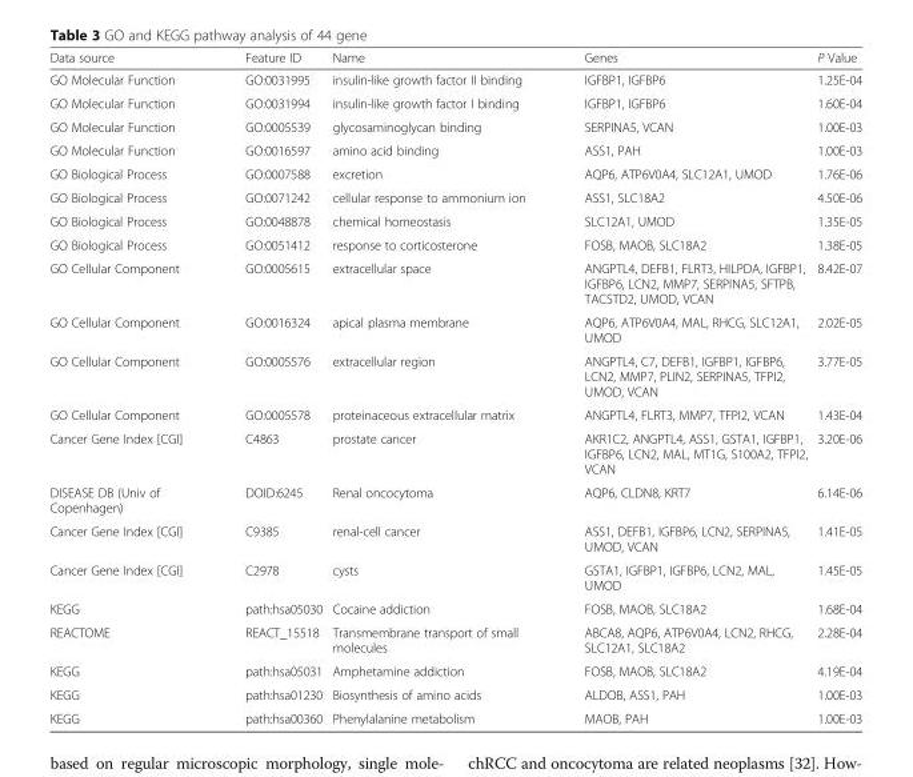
<table><thead><tr><td>Data source</td><td>Feature ID</td><td>Name</td><td>Genes</td><td>P Value</td></tr></thead><tbody><tr><td>GO Molecular Function</td><td>GO:0031995</td><td>insulin-like growth factor II binding</td><td>IGFBP1, IGFBP6</td><td>1.25E-04</td></tr><tr><td>GO Molecular Function</td><td>GO:0031994</td><td>insulin-like growth factor I binding</td><td>IGFBP1, IGFBP6</td><td>1.60E-04</td></tr><tr><td>GO Molecular Function</td><td>GO:0005539</td><td>glycosaminoglycan binding</td><td>SERPINA5, VCAN</td><td>1.00E-03</td></tr><tr><td>GO Molecular Function</td><td>GO:0016597</td><td>amino acid binding</td><td>ASS1, PAH</td><td>1.00E-03</td></tr><tr><td>GO Biological Process</td><td>GO:0007588</td><td>excretion</td><td>AQP6, ATP6V0A4, SLC12A1, UMOD</td><td>1.76E-06</td></tr><tr><td>GO Biological Process</td><td>GO:0071242</td><td>cellular response to ammonium ion</td><td>ASS1, SLC18A2</td><td>4.50E-06</td></tr><tr><td>GO Biological Process</td><td>GO:0048878</td><td>chemical homeostasis</td><td>SLC12A1, UMOD</td><td>1.35E-05</td></tr><tr><td>GO Biological Process</td><td>GO:0051412</td><td>response to corticosterone</td><td>FOSB, MAOB, SLC18A2</td><td>1.38E-05</td></tr><tr><td>GO Cellular Component</td><td>GO:0005615</td><td>extracellular space</td><td>ANGPTL4, DEFB1, FLRT3, HILPDA, IGFBP1, IGFBP6, LCN2, MMP7, SERPINA5, SFTPB, TACSTD2, UMOD, VCAN</td><td>8.42E-07</td></tr><tr><td>GO Cellular Component</td><td>GO:0016324</td><td>apical plasma membrane</td><td>AQP6, ATP6V0A4, MAL, RHCG, SLC12A1, UMOD</td><td>2.02E-05</td></tr><tr><td>GO Cellular Component</td><td>GO:0005576</td><td>extracellular region</td><td>ANGPTL4, C7, DEFB1, IGFBP1, IGFBP6, LCN2, MMP7, PLIN2, SERPINA5, TFPI2, UMOD, VCAN</td><td>3.77E-05</td></tr><tr><td>GO Cellular Component</td><td>GO:0005578</td><td>proteinaceous extracellular matrix</td><td>ANGPTL4, FLRT3, MMP7, TFPI2, VCAN</td><td>1.43E-04</td></tr><tr><td>Cancer Gene Index [CGI]</td><td>C4863</td><td>prostate cancer</td><td>AKR1C2, ANGPTL4, ASS1, GSTA1, IGFBP1, IGFBP6, LCN2, MAL, MT1G, S100A2, TFPI2, VCAN</td><td>3.20E-06</td></tr><tr><td>DISEASE DB (Univ of Copenhagen)</td><td>DOID:6245</td><td>Renal oncocytoma</td><td>AQP6, CLDN8, KRT7</td><td>6.14E-06</td></tr><tr><td>Cancer Gene Index [CGI]</td><td>C9385</td><td>renal-cell cancer</td><td>ASS1, DEFB1, IGFBP6, LCN2, SERPINA5, UMOD, VCAN</td><td>1.41E-05</td></tr><tr><td>Cancer Gene Index [CGI]</td><td>C2978</td><td>cysts</td><td>GSTA1, IGFBP1, IGFBP6, LCN2, MAL, UMOD</td><td>1.45E-05</td></tr><tr><td>KEGG</td><td>path:hsa05030</td><td>Cocaine addiction</td><td>FOSB, MAOB, SLC18A2</td><td>1.68E-04</td></tr><tr><td>REACTOME</td><td>REACT_15518</td><td>Transmembrane transport of small molecules</td><td>ABCA8, AQP6, ATP6V0A4, LCN2, RHCG, SLC12A1, SLC18A2</td><td>2.28E-04</td></tr><tr><td>KEGG</td><td>path:hsa05031</td><td>Amphetamine addiction</td><td>FOSB, MAOB, SLC18A2</td><td>4.19E-04</td></tr><tr><td>KEGG</td><td>path:hsa01230</td><td>Biosynthesis of amino acids</td><td>ALDOB, ASS1, PAH</td><td>1.00E-03</td></tr><tr><td>KEGG</td><td>path:hsa00360</td><td>Phenylalanine metabolism</td><td>MAOB, PAH</td><td>1.00E-03</td></tr></tbody></table>